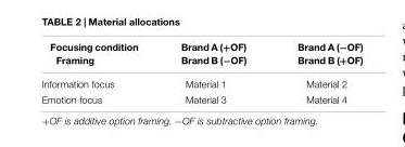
<table><thead><tr><td>Focusing condition Framing</td><td>Brand A (+OF) Brand B (−OF)</td><td>Brand A (−OF) Brand B (+OF)</td></tr></thead><tbody><tr><td>Information focus</td><td>Material 1</td><td>Material 2</td></tr><tr><td>Emotion focus</td><td>Material 3</td><td>Material 4</td></tr></tbody></table>